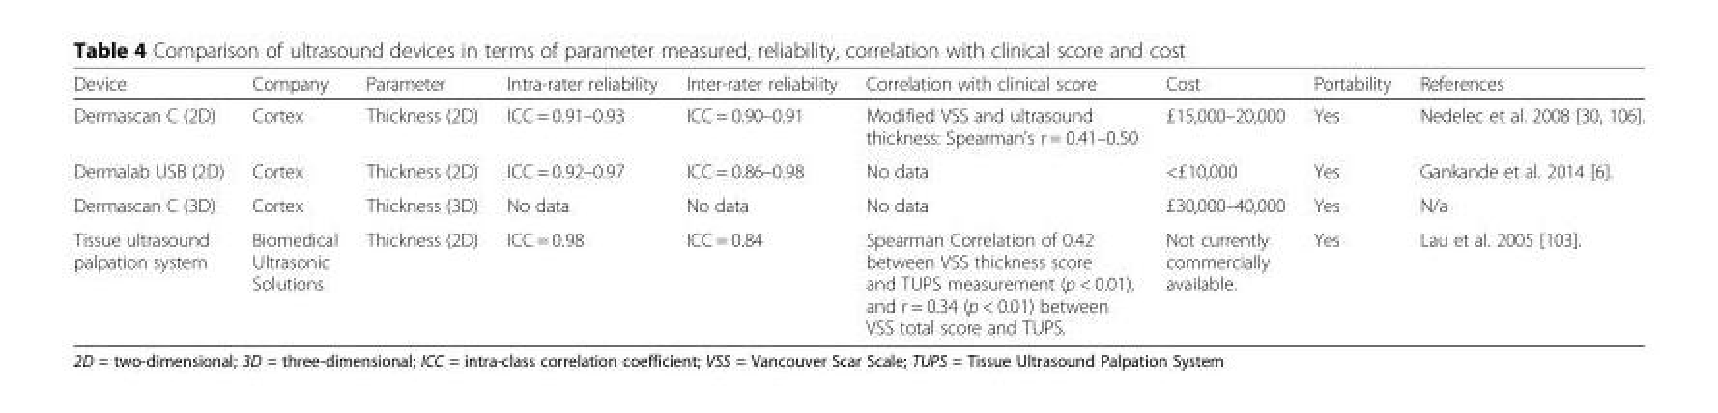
<table><thead><tr><td>Device</td><td>Company</td><td>Parameter</td><td>Intra-rater reliability</td><td>Inter-rater reliability</td><td>Correlation with clinical score</td><td>Cost</td><td>Portability</td><td>References</td></tr></thead><tbody><tr><td>Dermascan C (2D)</td><td>Cortex</td><td>Thickness (2D)</td><td>ICC = 0.91–0.93</td><td>ICC = 0.90–0.91</td><td>Modified VSS and ultrasound thickness: Spearman&#x27;s r = 0.41–0.50</td><td>£15,000–20,000</td><td>Yes</td><td>Nedelec et al. 2008 [30, 106].</td></tr><tr><td>Dermalab USB (2D)</td><td>Cortex</td><td>Thickness (2D)</td><td>ICC = 0.92–0.97</td><td>ICC = 0.86–0.98</td><td>No data</td><td>&lt;£10,000</td><td>Yes</td><td>Gankande et al. 2014 [6].</td></tr><tr><td>Dermascan C (3D)</td><td>Cortex</td><td>Thickness (3D)</td><td>No data</td><td>No data</td><td>No data</td><td>£30,000–40,000</td><td>Yes</td><td>N/a</td></tr><tr><td>Tissue ultrasound palpation system</td><td>Biomedical Ultrasonic Solutions</td><td>Thickness (2D)</td><td>ICC = 0.98</td><td>ICC = 0.84</td><td>Spearman Correlation of 0.42 between VSS thickness score and TUPS measurement (p &lt; 0.01), and r = 0.34 (p &lt; 0.01) between VSS total score and TUPS.</td><td>Not currently commercially available.</td><td>Yes</td><td>Lau et al. 2005 [103].</td></tr></tbody></table>